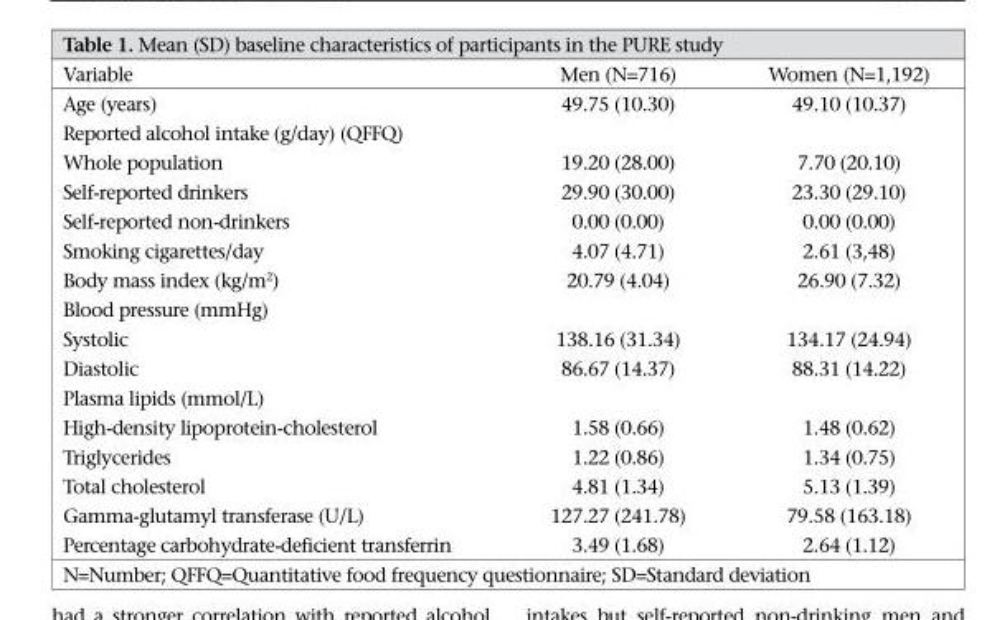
<table><thead><tr><td>Variable</td><td>Men (N=716)</td><td>Women (N=1,192)</td></tr></thead><tbody><tr><td>Age (years)</td><td>49.75 (10.30)</td><td>49.10 (10.37)</td></tr><tr><td colspan="3">Reported alcohol intake (g/day) (QFFQ)</td></tr><tr><td>Whole population</td><td>19.20 (28.00)</td><td>7.70 (20.10)</td></tr><tr><td>Self-reported drinkers</td><td>29.90 (30.00)</td><td>23.30 (29.10)</td></tr><tr><td>Self-reported non-drinkers</td><td>0.00 (0.00)</td><td>0.00 (0.00)</td></tr><tr><td>Smoking cigarettes/day</td><td>4.07 (4.71)</td><td>2.61 (3,48)</td></tr><tr><td>Body mass index (kg/m<sup>2</sup>)</td><td>20.79 (4.04)</td><td>26.90 (7.32)</td></tr><tr><td colspan="3">Blood pressure (mmHg)</td></tr><tr><td>Systolic</td><td>138.16 (31.34)</td><td>134.17 (24.94)</td></tr><tr><td>Diastolic</td><td>86.67 (14.37)</td><td>88.31 (14.22)</td></tr><tr><td colspan="3">Plasma lipids (mmol/L)</td></tr><tr><td>High-density lipoprotein-cholesterol</td><td>1.58 (0.66)</td><td>1.48 (0.62)</td></tr><tr><td>Triglycerides</td><td>1.22 (0.86)</td><td>1.34 (0.75)</td></tr><tr><td>Total cholesterol</td><td>4.81 (1.34)</td><td>5.13 (1.39)</td></tr><tr><td>Gamma-glutamyl transferase (U/L)</td><td>127.27 (241.78)</td><td>79.58 (163.18)</td></tr><tr><td>Percentage carbohydrate-deficient transferrin</td><td>3.49 (1.68)</td><td>2.64 (1.12)</td></tr></tbody></table>